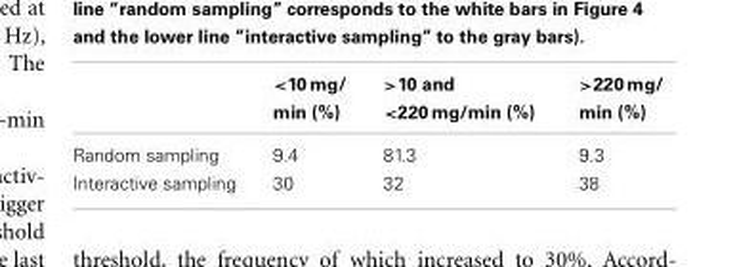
<table><thead><tr><td></td><td>&lt;10 mg/ min (%)</td><td>&gt;10 and &lt;220 mg/min (%)</td><td>&gt;220 mg/ min (%)</td></tr></thead><tbody><tr><td>Random sampling</td><td>9.4</td><td>81.3</td><td>9.3</td></tr><tr><td>Interactive sampling</td><td>30</td><td>32</td><td>38</td></tr></tbody></table>